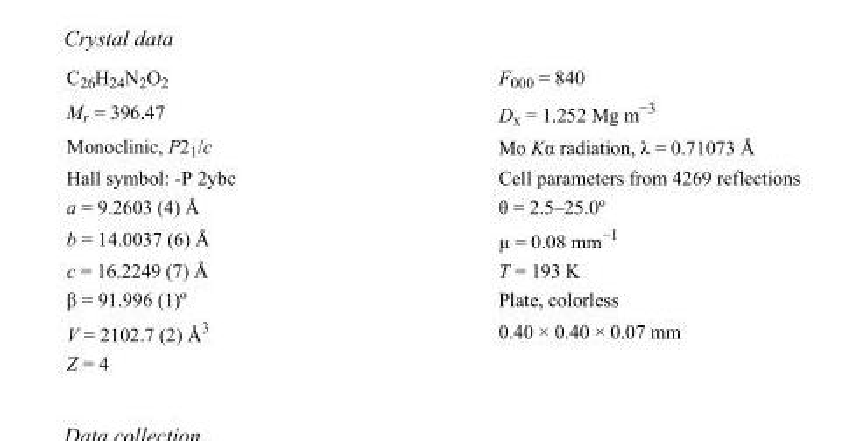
<table><tbody><tr><td>C<sub>26</sub>H<sub>24</sub>N<sub>2</sub>O<sub>2</sub></td><td>F000 = 840</td></tr><tr><td>M<sub>r</sub> = 396.47</td><td>D<sub>x</sub> = 1.252 Mg m<sup>−3</sup></td></tr><tr><td>Monoclinic, P2<sub>1</sub>/c</td><td>Mo Kα radiation, λ = 0.71073 Å</td></tr><tr><td>Hall symbol: -P 2ybc</td><td>Cell parameters from 4269 reflections</td></tr><tr><td>a = 9.2603 (4) Å</td><td>θ = 2.5–25.0º</td></tr><tr><td>b = 14.0037 (6) Å</td><td>µ = 0.08 mm<sup>−1</sup></td></tr><tr><td>c = 16.2249 (7) Å</td><td>T = 193 K</td></tr><tr><td>β = 91.996 (1)º</td><td>Plate, colorless</td></tr><tr><td>V = 2102.7 (2) Å<sup>3</sup></td><td>0.40 × 0.40 × 0.07 mm</td></tr><tr><td>Z = 4</td><td></td></tr></tbody></table>